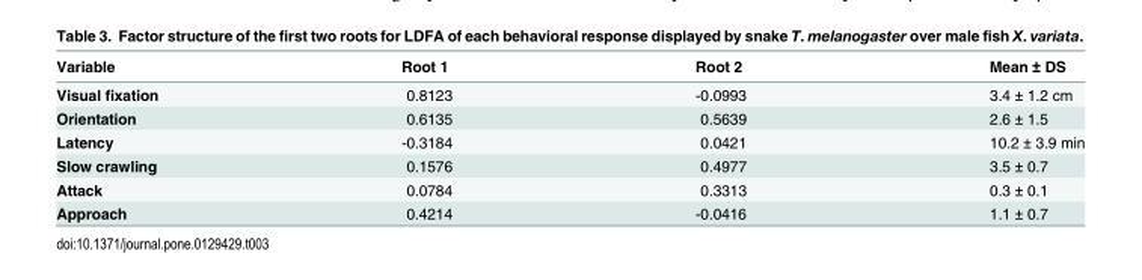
<table><thead><tr><td>Variable</td><td>Root 1</td><td>Root 2</td><td>Mean ± DS</td></tr></thead><tbody><tr><td>Visual fixation</td><td>0.8123</td><td>-0.0993</td><td>3.4 ± 1.2 cm</td></tr><tr><td>Orientation</td><td>0.6135</td><td>0.5639</td><td>2.6 ± 1.5</td></tr><tr><td>Latency</td><td>-0.3184</td><td>0.0421</td><td>10.2 ± 3.9 min</td></tr><tr><td>Slow crawling</td><td>0.1576</td><td>0.4977</td><td>3.5 ± 0.7</td></tr><tr><td>Attack</td><td>0.0784</td><td>0.3313</td><td>0.3 ± 0.1</td></tr><tr><td>Approach</td><td>0.4214</td><td>-0.0416</td><td>1.1 ± 0.7</td></tr></tbody></table>